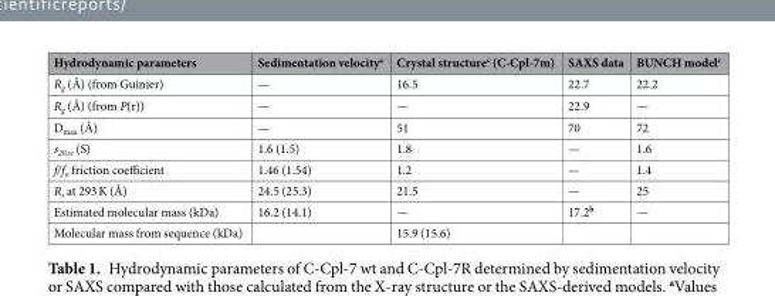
<table><thead><tr><td>Hydrodynamic parameters</td><td>Sedimentation velocity<sup>a</sup></td><td>Crystal structure<sup>c</sup> (C-Cpl-7m)</td><td>SAXS data</td><td>BUNCH model<sup>c</sup></td></tr></thead><tbody><tr><td>R<sub>g</sub> (Å) (from Guinier)</td><td>—</td><td>16.5</td><td>22.7</td><td>22.2</td></tr><tr><td>R<sub>g</sub> (Å) (from P(r))</td><td>—</td><td>—</td><td>22.9</td><td>—</td></tr><tr><td>D<sub>max</sub> (Å)</td><td>—</td><td>51</td><td>70</td><td>72</td></tr><tr><td>s<sub>20,w</sub> (S)</td><td>1.6 (1.5)</td><td>1.8</td><td>—</td><td>1.6</td></tr><tr><td>f/f<sub>o</sub> friction coefficient</td><td>1.46 (1.54)</td><td>1.2</td><td>—</td><td>1.4</td></tr><tr><td>R<sub>s</sub> at 293 K (Å)</td><td>24.5 (25.3)</td><td>21.5</td><td>—</td><td>25</td></tr><tr><td>Estimated molecular mass (kDa)</td><td>16.2 (14.1)</td><td>—</td><td>17.2<sup>b</sup></td><td>—</td></tr><tr><td>Molecular mass from sequence (kDa)</td><td></td><td>15.9 (15.6)</td><td></td><td></td></tr></tbody></table>